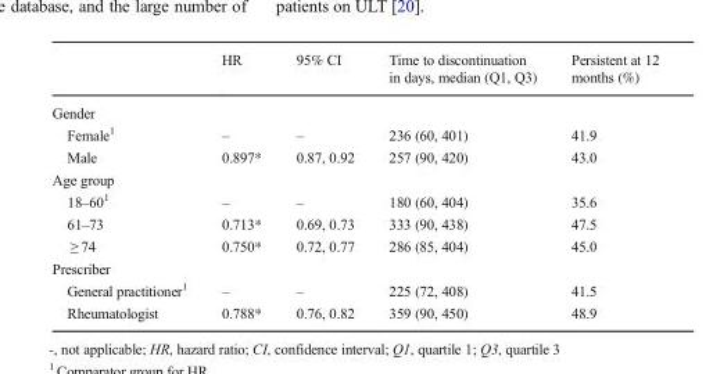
<table><thead><tr><td></td><td>HR</td><td>95% CI</td><td>Time to discontinuation in days, median (Q1, Q3)</td><td>Persistent at 12 months (%)</td></tr></thead><tbody><tr><td colspan="5">Gender</td></tr><tr><td>Female<sup>1</sup></td><td>–</td><td>–</td><td>236 (60, 401)</td><td>41.9</td></tr><tr><td>Male</td><td>0.897*</td><td>0.87, 0.92</td><td>257 (90, 420)</td><td>43.0</td></tr><tr><td colspan="5">Age group</td></tr><tr><td>18–60<sup>1</sup></td><td>–</td><td>–</td><td>180 (60, 404)</td><td>35.6</td></tr><tr><td>61–73</td><td>0.713*</td><td>0.69, 0.73</td><td>333 (90, 438)</td><td>47.5</td></tr><tr><td>≥ 74</td><td>0.750*</td><td>0.72, 0.77</td><td>286 (85, 404)</td><td>45.0</td></tr><tr><td colspan="5">Prescriber</td></tr><tr><td>General practitioner<sup>1</sup></td><td>–</td><td>–</td><td>225 (72, 408)</td><td>41.5</td></tr><tr><td>Rheumatologist</td><td>0.788*</td><td>0.76, 0.82</td><td>359 (90, 450)</td><td>48.9</td></tr></tbody></table>